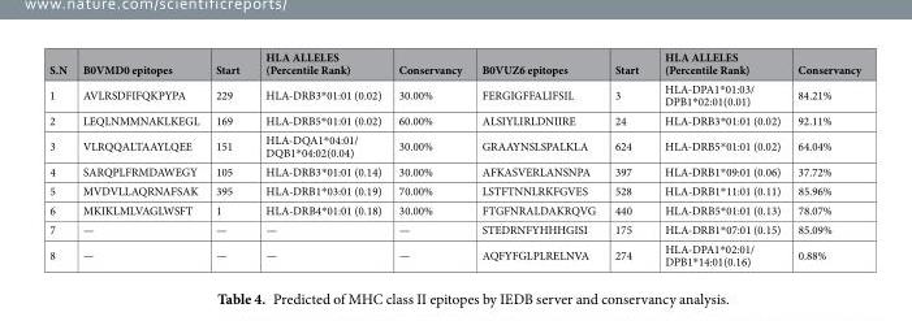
<table><thead><tr><td>S.N</td><td>B0VMD0 epitopes</td><td>Start</td><td>HLA ALLELES (Percentile Rank)</td><td>Conservancy</td><td>B0VUZ6 epitopes</td><td>Start</td><td>HLA ALLELES (Percentile Rank)</td><td>Conservancy</td></tr></thead><tbody><tr><td>1</td><td>AVLRSDFIFQKPYPA</td><td>229</td><td>HLA-DRB3*01:01 (0.02)</td><td>30.00%</td><td>FERGIGFFALIFSIL</td><td>3</td><td>HLA-DPA1*01:03/ DPB1*02:01(0.01)</td><td>84.21%</td></tr><tr><td>2</td><td>LEQLNMMNAKLKEGL</td><td>169</td><td>HLA-DRB5*01:01 (0.02)</td><td>60.00%</td><td>ALSIYLIRLDNIIRE</td><td>24</td><td>HLA-DRB3*01:01 (0.02)</td><td>92.11%</td></tr><tr><td>3</td><td>VLRQQALTAAYLQEE</td><td>151</td><td>HLA-DQA1*04:01/ DQB1*04:02(0.04)</td><td>30.00%</td><td>GRAAYNSLSPALKLA</td><td>624</td><td>HLA-DRB5*01:01 (0.02)</td><td>64.04%</td></tr><tr><td>4</td><td>SARQPLFRMDAWEGY</td><td>105</td><td>HLA-DRB3*01:01 (0.14)</td><td>30.00%</td><td>AFKASVERLANSNPA</td><td>397</td><td>HLA-DRB1*09:01 (0.06)</td><td>37.72%</td></tr><tr><td>5</td><td>MVDVLLAQRNAFSAK</td><td>395</td><td>HLA-DRB1*03:01 (0.19)</td><td>70.00%</td><td>LSTFTNNLRKFGVES</td><td>528</td><td>HLA-DRB1*11:01 (0.11)</td><td>85.96%</td></tr><tr><td>6</td><td>MKIKLMLVAGLWSFT</td><td>1</td><td>HLA-DRB4*01:01 (0.18)</td><td>30.00%</td><td>FTGFNRALDAKRQVG</td><td>440</td><td>HLA-DRB5*01:01 (0.13)</td><td>78.07%</td></tr><tr><td>7</td><td>—</td><td>—</td><td>—</td><td>—</td><td>STEDRNFYHHHGISI</td><td>175</td><td>HLA-DRB1*07:01 (0.15)</td><td>85.09%</td></tr><tr><td>8</td><td>—</td><td>—</td><td>—</td><td>—</td><td>AQFYFGLPLRELNVA</td><td>274</td><td>HLA-DPA1*02:01/ DPB1*14:01(0.16)</td><td>0.88%</td></tr></tbody></table>